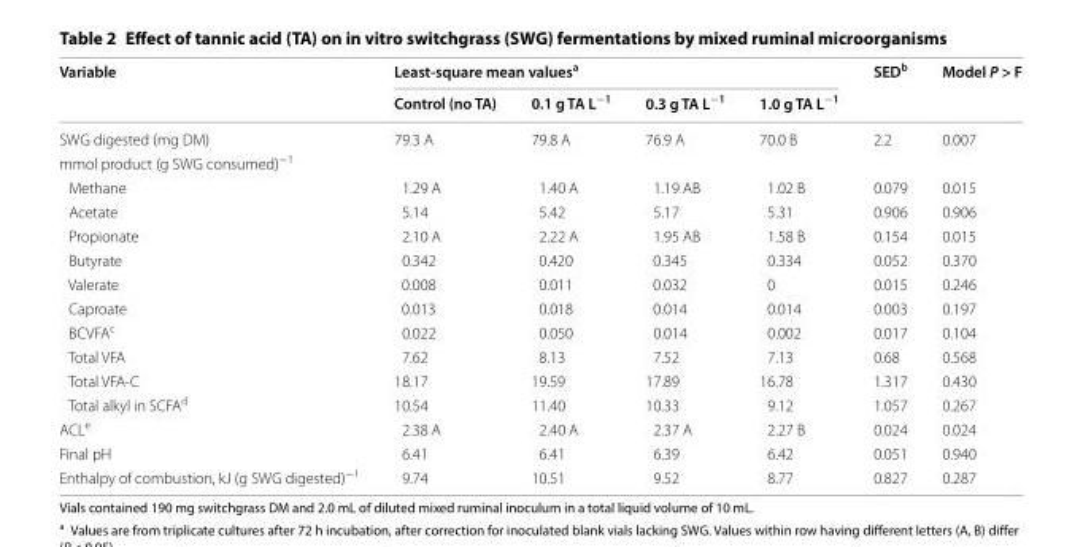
<table><thead><tr><td rowspan="2">Variable</td><td colspan="4">Least-square mean values<sup>a</sup></td><td rowspan="2">SED<sup>b</sup></td><td rowspan="2">Model P &gt; F</td></tr><tr><td>Control (no TA)</td><td>0.1 g TA L<sup>−1</sup></td><td>0.3 g TA L<sup>−1</sup></td><td>1.0 g TA L<sup>−1</sup></td></tr></thead><tbody><tr><td>SWG digested (mg DM)</td><td>79.3 A</td><td>79.8 A</td><td>76.9 A</td><td>70.0 B</td><td>2.2</td><td>0.007</td></tr><tr><td colspan="7">mmol product (g SWG consumed)<sup>−1</sup></td></tr><tr><td>Methane</td><td>1.29 A</td><td>1.40 A</td><td>1.19 AB</td><td>1.02 B</td><td>0.079</td><td>0.015</td></tr><tr><td>Acetate</td><td>5.14</td><td>5.42</td><td>5.17</td><td>5.31</td><td>0.906</td><td>0.906</td></tr><tr><td>Propionate</td><td>2.10 A</td><td>2.22 A</td><td>1.95 AB</td><td>1.58 B</td><td>0.154</td><td>0.015</td></tr><tr><td>Butyrate</td><td>0.342</td><td>0.420</td><td>0.345</td><td>0.334</td><td>0.052</td><td>0.370</td></tr><tr><td>Valerate</td><td>0.008</td><td>0.011</td><td>0.032</td><td>0</td><td>0.015</td><td>0.246</td></tr><tr><td>Caproate</td><td>0.013</td><td>0.018</td><td>0.014</td><td>0.014</td><td>0.003</td><td>0.197</td></tr><tr><td>BCVFA<sup>c</sup></td><td>0.022</td><td>0.050</td><td>0.014</td><td>0.002</td><td>0.017</td><td>0.104</td></tr><tr><td>Total VFA</td><td>7.62</td><td>8.13</td><td>7.52</td><td>7.13</td><td>0.68</td><td>0.568</td></tr><tr><td>Total VFA-C</td><td>18.17</td><td>19.59</td><td>17.89</td><td>16.78</td><td>1.317</td><td>0.430</td></tr><tr><td>Total alkyl in SCFA<sup>d</sup></td><td>10.54</td><td>11.40</td><td>10.33</td><td>9.12</td><td>1.057</td><td>0.267</td></tr><tr><td>ACL<sup>e</sup></td><td>2.38 A</td><td>2.40 A</td><td>2.37 A</td><td>2.27 B</td><td>0.024</td><td>0.024</td></tr><tr><td>Final pH</td><td>6.41</td><td>6.41</td><td>6.39</td><td>6.42</td><td>0.051</td><td>0.940</td></tr><tr><td>Enthalpy of combustion, kJ (g SWG digested)<sup>−1</sup></td><td>9.74</td><td>10.51</td><td>9.52</td><td>8.77</td><td>0.827</td><td>0.287</td></tr></tbody></table>